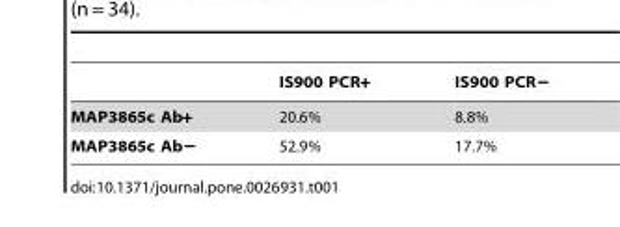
<table><thead><tr><td></td><td>IS900 PCR+</td><td>IS900 PCR−</td></tr></thead><tbody><tr><td>MAP3865c Ab+</td><td>20.6%</td><td>8.8%</td></tr><tr><td>MAP3865c Ab−</td><td>52.9%</td><td>17.7%</td></tr></tbody></table>